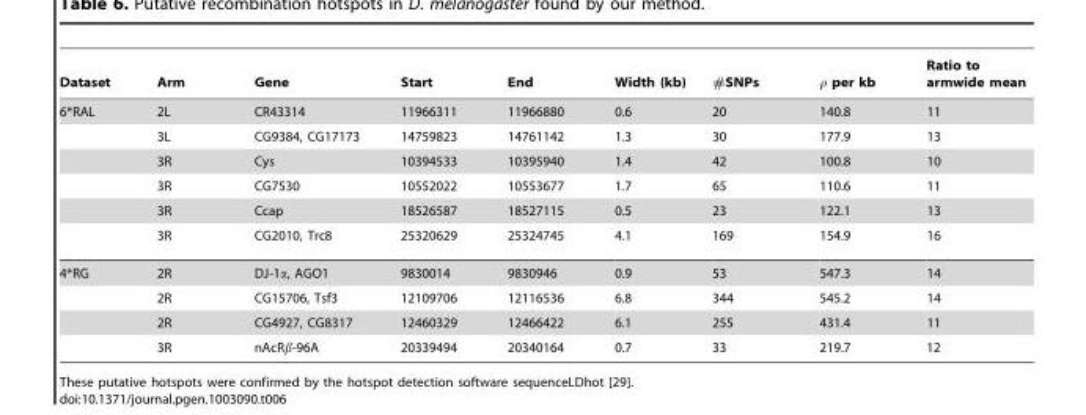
<table><thead><tr><td>Dataset</td><td>Arm</td><td>Gene</td><td>Start</td><td>End</td><td>Width (kb)</td><td>#SNPs</td><td>r per kb</td><td>Ratio to armwide mean</td></tr></thead><tbody><tr><td rowspan="6">6*RAL</td><td>2L</td><td>CR43314</td><td>11966311</td><td>11966880</td><td>0.6</td><td>20</td><td>140.8</td><td>11</td></tr><tr><td>3L</td><td>CG9384, CG17173</td><td>14759823</td><td>14761142</td><td>1.3</td><td>30</td><td>177.9</td><td>13</td></tr><tr><td>3R</td><td>Cys</td><td>10394533</td><td>10395940</td><td>1.4</td><td>42</td><td>100.8</td><td>10</td></tr><tr><td>3R</td><td>CG7530</td><td>10552022</td><td>10553677</td><td>1.7</td><td>65</td><td>110.6</td><td>11</td></tr><tr><td>3R</td><td>Ccap</td><td>18526587</td><td>18527115</td><td>0.5</td><td>23</td><td>122.1</td><td>13</td></tr><tr><td>3R</td><td>CG2010, Trc8</td><td>25320629</td><td>25324745</td><td>4.1</td><td>169</td><td>154.9</td><td>16</td></tr><tr><td rowspan="4">4*RG</td><td>2R</td><td>DJ-1a, AGO1</td><td>9830014</td><td>9830946</td><td>0.9</td><td>53</td><td>547.3</td><td>14</td></tr><tr><td>2R</td><td>CG15706, Tsf3</td><td>12109706</td><td>12116536</td><td>6.8</td><td>344</td><td>545.2</td><td>14</td></tr><tr><td>2R</td><td>CG4927, CG8317</td><td>12460329</td><td>12466422</td><td>6.1</td><td>255</td><td>431.4</td><td>11</td></tr><tr><td>3R</td><td>nAcRb-96A</td><td>20339494</td><td>20340164</td><td>0.7</td><td>33</td><td>219.7</td><td>12</td></tr></tbody></table>